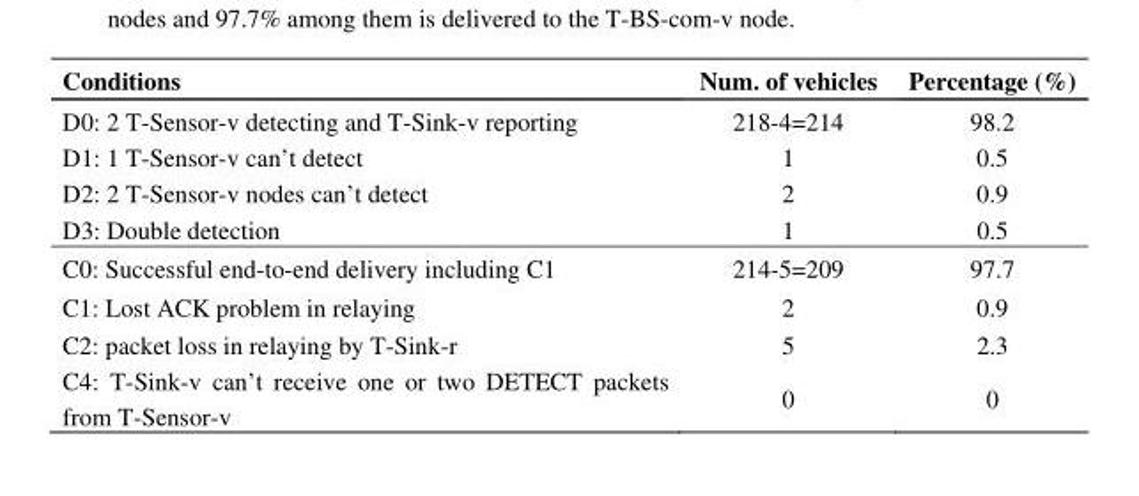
<table><thead><tr><td>Conditions</td><td>Num. of vehicles</td><td>Percentage (%)</td></tr></thead><tbody><tr><td>D0: 2 T-Sensor-v detecting and T-Sink-v reporting</td><td>218-4=214</td><td>98.2</td></tr><tr><td>D1: 1 T-Sensor-v can’t detect</td><td>1</td><td>0.5</td></tr><tr><td>D2: 2 T-Sensor-v nodes can’t detect</td><td>2</td><td>0.9</td></tr><tr><td>D3: Double detection</td><td>1</td><td>0.5</td></tr><tr><td>C0: Successful end-to-end delivery including C1</td><td>214-5=209</td><td>97.7</td></tr><tr><td>C1: Lost ACK problem in relaying</td><td>2</td><td>0.9</td></tr><tr><td>C2: packet loss in relaying by T-Sink-r</td><td>5</td><td>2.3</td></tr><tr><td>C4: T-Sink-v can’t receive one or two DETECT packets from T-Sensor-v</td><td>0</td><td>0</td></tr></tbody></table>